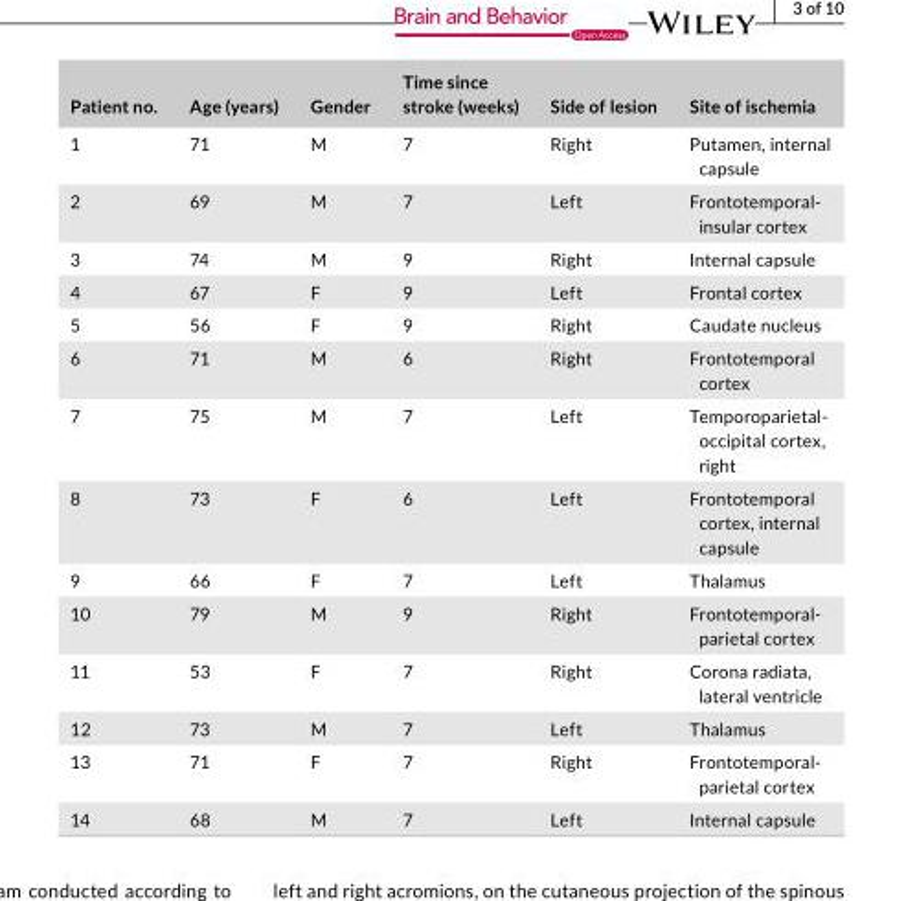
<table><thead><tr><td>Patient no.</td><td>Age (years)</td><td>Gender</td><td>Time since stroke (weeks)</td><td>Side of lesion</td><td>Site of ischemia</td></tr></thead><tbody><tr><td>1</td><td>71</td><td>M</td><td>7</td><td>Right</td><td>Putamen, internal capsule</td></tr><tr><td>2</td><td>69</td><td>M</td><td>7</td><td>Left</td><td>Frontotemporal- insular cortex</td></tr><tr><td>3</td><td>74</td><td>M</td><td>9</td><td>Right</td><td>Internal capsule</td></tr><tr><td>4</td><td>67</td><td>F</td><td>9</td><td>Left</td><td>Frontal cortex</td></tr><tr><td>5</td><td>56</td><td>F</td><td>9</td><td>Right</td><td>Caudate nucleus</td></tr><tr><td>6</td><td>71</td><td>M</td><td>6</td><td>Right</td><td>Frontotemporal cortex</td></tr><tr><td>7</td><td>75</td><td>M</td><td>7</td><td>Left</td><td>Temporoparietal- occipital cortex, right</td></tr><tr><td>8</td><td>73</td><td>F</td><td>6</td><td>Left</td><td>Frontotemporal cortex, internal capsule</td></tr><tr><td>9</td><td>66</td><td>F</td><td>7</td><td>Left</td><td>Thalamus</td></tr><tr><td>10</td><td>79</td><td>M</td><td>9</td><td>Right</td><td>Frontotemporal- parietal cortex</td></tr><tr><td>11</td><td>53</td><td>F</td><td>7</td><td>Right</td><td>Corona radiata, lateral ventricle</td></tr><tr><td>12</td><td>73</td><td>M</td><td>7</td><td>Left</td><td>Thalamus</td></tr><tr><td>13</td><td>71</td><td>F</td><td>7</td><td>Right</td><td>Frontotemporal- parietal cortex</td></tr><tr><td>14</td><td>68</td><td>M</td><td>7</td><td>Left</td><td>Internal capsule</td></tr></tbody></table>